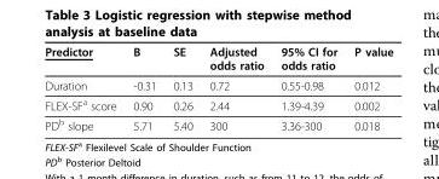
<table><thead><tr><td>Predictor</td><td>B</td><td>SE</td><td>Adjusted odds ratio</td><td>95% CI for odds ratio</td><td>P value</td></tr></thead><tbody><tr><td>Duration</td><td>-0.31</td><td>0.13</td><td>0.72</td><td>0.55-0.98</td><td>0.012</td></tr><tr><td>FLEX-SF<sup>a</sup> score</td><td>0.90</td><td>0.26</td><td>2.44</td><td>1.39-4.39</td><td>0.002</td></tr><tr><td>PD<sup>b</sup> slope</td><td>5.71</td><td>5.40</td><td>300</td><td>3.36-300</td><td>0.018</td></tr></tbody></table>